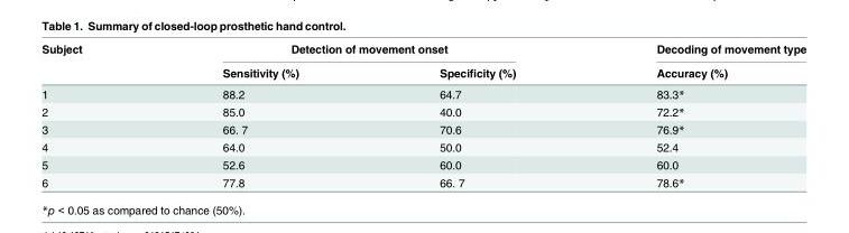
<table><thead><tr><td rowspan="2">Subject</td><td colspan="2">Detection of movement onset</td><td rowspan="2">Decoding of movement type Accuracy (%)</td></tr><tr><td>Sensitivity (%)</td><td>Specificity (%)</td></tr></thead><tbody><tr><td>1</td><td>88.2</td><td>64.7</td><td>83.3*</td></tr><tr><td>2</td><td>85.0</td><td>40.0</td><td>72.2*</td></tr><tr><td>3</td><td>66. 7</td><td>70.6</td><td>76.9*</td></tr><tr><td>4</td><td>64.0</td><td>50.0</td><td>52.4</td></tr><tr><td>5</td><td>52.6</td><td>60.0</td><td>60.0</td></tr><tr><td>6</td><td>77.8</td><td>66. 7</td><td>78.6*</td></tr></tbody></table>